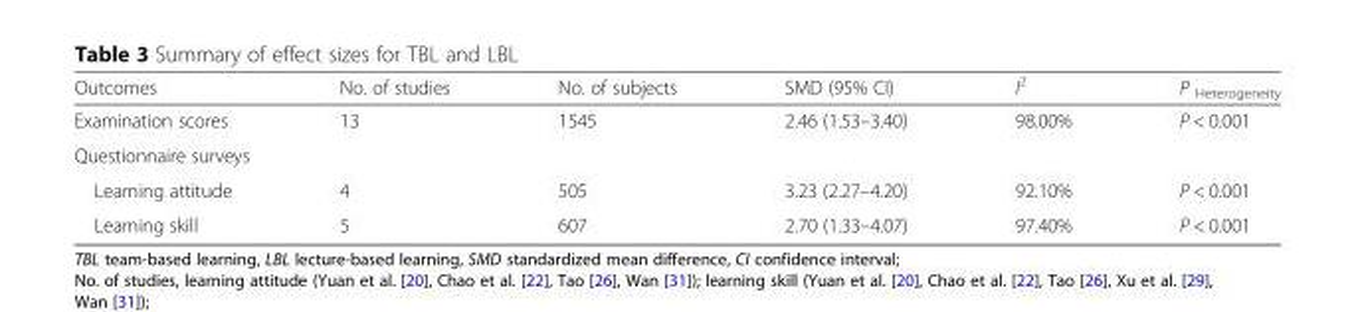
<table><thead><tr><td>Outcomes</td><td>No. of studies</td><td>No. of subjects</td><td>SMD (95% CI)</td><td>I<sup>2</sup></td><td>P <sub>Heterogeneity</sub></td></tr></thead><tbody><tr><td>Examination scores</td><td>13</td><td>1545</td><td>2.46 (1.53–3.40)</td><td>98.00%</td><td>P &lt; 0.001</td></tr><tr><td colspan="6">Questionnaire surveys</td></tr><tr><td>Learning attitude</td><td>4</td><td>505</td><td>3.23 (2.27–4.20)</td><td>92.10%</td><td>P &lt; 0.001</td></tr><tr><td>Learning skill</td><td>5</td><td>607</td><td>2.70 (1.33–4.07)</td><td>97.40%</td><td>P &lt; 0.001</td></tr></tbody></table>